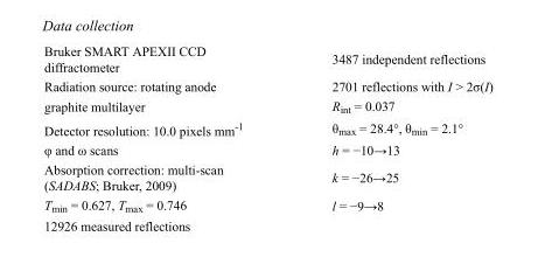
<table><tbody><tr><td>Bruker SMART APEXII CCD diffractometer</td><td>3487 independent reflections</td></tr><tr><td>Radiation source: rotating anode</td><td>2701 reflections with I &gt; 2σ(I)</td></tr><tr><td>graphite multilayer</td><td>R<sub>int</sub> = 0.037</td></tr><tr><td>Detector resolution: 10.0 pixels mm<sup>-1</sup></td><td>θ<sub>max</sub> = 28.4°, θ<sub>min</sub> = 2.1°</td></tr><tr><td>φ and ω scans</td><td>h = −10→13</td></tr><tr><td>Absorption correction: multi-scan (SADABS; Bruker, 2009)</td><td>k = −26→25</td></tr><tr><td>T<sub>min</sub> = 0.627, T<sub>max</sub> = 0.746</td><td>l = −9→8</td></tr><tr><td>12926 measured reflections</td><td></td></tr></tbody></table>